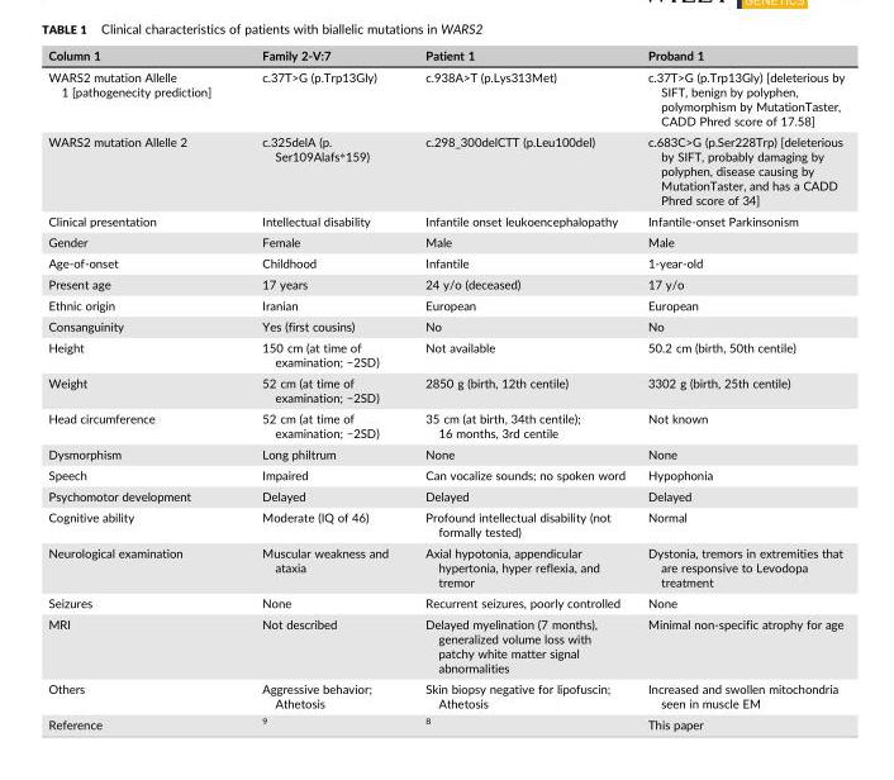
<table><thead><tr><td>Column 1</td><td>Family 2-V:7</td><td>Patient 1</td><td>Proband 1</td></tr></thead><tbody><tr><td>WARS2 mutation Allelle 1 [pathogenecity prediction]</td><td>c.37T&gt;G (p.Trp13Gly)</td><td>c.938A&gt;T (p.Lys313Met)</td><td>c.37T&gt;G (p.Trp13Gly) [deleterious by SIFT, benign by polyphen, polymorphism by MutationTaster, CADD Phred score of 17.58]</td></tr><tr><td>WARS2 mutation Allelle 2</td><td>c.325delA (p. Ser109Alafs*159)</td><td>c.298_300delCTT (p.Leu100del)</td><td>c.683C&gt;G (p.Ser228Trp) [deleterious by SIFT, probably damaging by polyphen, disease causing by MutationTaster, and has a CADD Phred score of 34]</td></tr><tr><td>Clinical presentation</td><td>Intellectual disability</td><td>Infantile onset leukoencephalopathy</td><td>Infantile-onset Parkinsonism</td></tr><tr><td>Gender</td><td>Female</td><td>Male</td><td>Male</td></tr><tr><td>Age-of-onset</td><td>Childhood</td><td>Infantile</td><td>1-year-old</td></tr><tr><td>Present age</td><td>17 years</td><td>24 y/o (deceased)</td><td>17 y/o</td></tr><tr><td>Ethnic origin</td><td>Iranian</td><td>European</td><td>European</td></tr><tr><td>Consanguinity</td><td>Yes (first cousins)</td><td>No</td><td>No</td></tr><tr><td>Height</td><td>150 cm (at time of examination; −2SD)</td><td>Not available</td><td>50.2 cm (birth, 50th centile)</td></tr><tr><td>Weight</td><td>52 cm (at time of examination; −2SD)</td><td>2850 g (birth, 12th centile)</td><td>3302 g (birth, 25th centile)</td></tr><tr><td>Head circumference</td><td>52 cm (at time of examination; −2SD)</td><td>35 cm (at birth, 34th centile); 16 months, 3rd centile</td><td>Not known</td></tr><tr><td>Dysmorphism</td><td>Long philtrum</td><td>None</td><td>None</td></tr><tr><td>Speech</td><td>Impaired</td><td>Can vocalize sounds; no spoken word</td><td>Hypophonia</td></tr><tr><td>Psychomotor development</td><td>Delayed</td><td>Delayed</td><td>Delayed</td></tr><tr><td>Cognitive ability</td><td>Moderate (IQ of 46)</td><td>Profound intellectual disability (not formally tested)</td><td>Normal</td></tr><tr><td>Neurological examination</td><td>Muscular weakness and ataxia</td><td>Axial hypotonia, appendicular hypertonia, hyper reflexia, and tremor</td><td>Dystonia, tremors in extremities that are responsive to Levodopa treatment</td></tr><tr><td>Seizures</td><td>None</td><td>Recurrent seizures, poorly controlled</td><td>None</td></tr><tr><td>MRI</td><td>Not described</td><td>Delayed myelination (7 months), generalized volume loss with patchy white matter signal abnormalities</td><td>Minimal non-specific atrophy for age</td></tr><tr><td>Others</td><td>Aggressive behavior; Athetosis</td><td>Skin biopsy negative for lipofuscin; Athetosis</td><td>Increased and swollen mitochondria seen in muscle EM</td></tr><tr><td>Reference</td><td>9</td><td>8</td><td>This paper</td></tr></tbody></table>